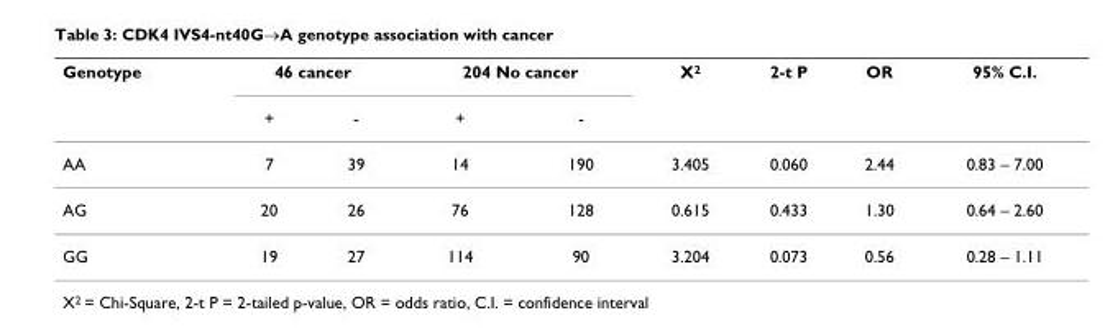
<table><thead><tr><td rowspan="2">Genotype</td><td colspan="2">46 cancer</td><td colspan="2">204 No cancer</td><td rowspan="2">X<sup>2</sup></td><td rowspan="2">2-t P</td><td rowspan="2">OR</td><td rowspan="2">95% C.I.</td></tr><tr><td>+</td><td>-</td><td>+</td><td>-</td></tr></thead><tbody><tr><td>AA</td><td>7</td><td>39</td><td>14</td><td>190</td><td>3.405</td><td>0.060</td><td>2.44</td><td>0.83 – 7.00</td></tr><tr><td>AG</td><td>20</td><td>26</td><td>76</td><td>128</td><td>0.615</td><td>0.433</td><td>1.30</td><td>0.64 – 2.60</td></tr><tr><td>GG</td><td>19</td><td>27</td><td>114</td><td>90</td><td>3.204</td><td>0.073</td><td>0.56</td><td>0.28 – 1.11</td></tr></tbody></table>